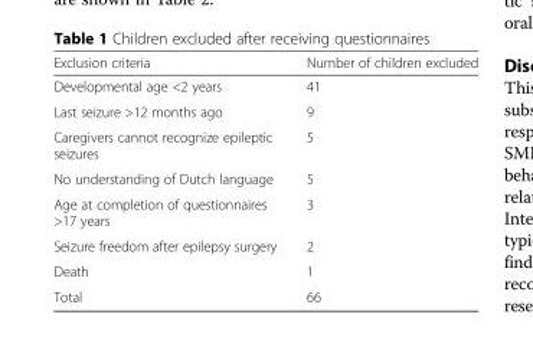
<table><thead><tr><td>Exclusion criteria</td><td>Number of children excluded</td></tr></thead><tbody><tr><td>Developmental age &lt;2 years</td><td>41</td></tr><tr><td>Last seizure &gt;12 months ago</td><td>9</td></tr><tr><td>Caregivers cannot recognize epileptic seizures</td><td>5</td></tr><tr><td>No understanding of Dutch language</td><td>5</td></tr><tr><td>Age at completion of questionnaires &gt;17 years</td><td>3</td></tr><tr><td>Seizure freedom after epilepsy surgery</td><td>2</td></tr><tr><td>Death</td><td>1</td></tr><tr><td>Total</td><td>66</td></tr></tbody></table>